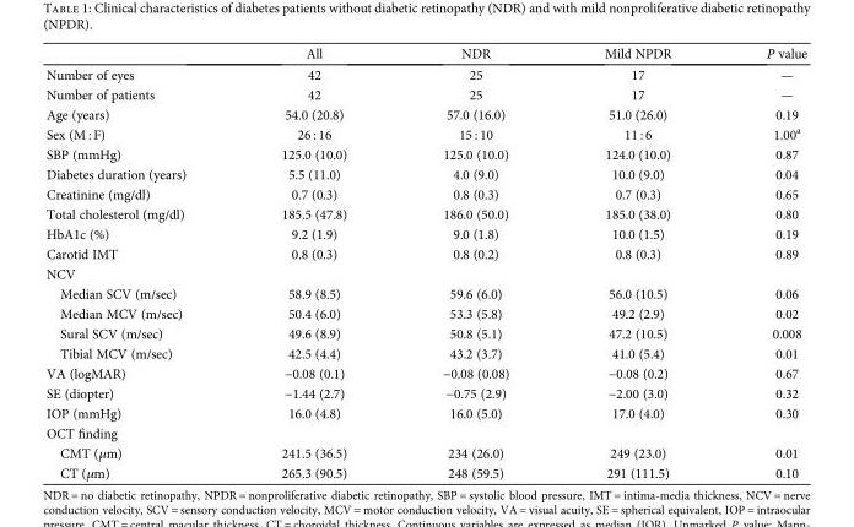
<table><thead><tr><td></td><td>All</td><td>NDR</td><td>Mild NPDR</td><td>P value</td></tr></thead><tbody><tr><td>Number of eyes</td><td>42</td><td>25</td><td>17</td><td>—</td></tr><tr><td>Number of patients</td><td>42</td><td>25</td><td>17</td><td>—</td></tr><tr><td>Age (years)</td><td>54.0 (20.8)</td><td>57.0 (16.0)</td><td>51.0 (26.0)</td><td>0.19</td></tr><tr><td>Sex (M : F)</td><td>26 : 16</td><td>15 : 10</td><td>11 : 6</td><td>1.00<sup>a</sup></td></tr><tr><td>SBP (mmHg)</td><td>125.0 (10.0)</td><td>125.0 (10.0)</td><td>124.0 (10.0)</td><td>0.87</td></tr><tr><td>Diabetes duration (years)</td><td>5.5 (11.0)</td><td>4.0 (9.0)</td><td>10.0 (9.0)</td><td>0.04</td></tr><tr><td>Creatinine (mg/dl)</td><td>0.7 (0.3)</td><td>0.8 (0.3)</td><td>0.7 (0.3)</td><td>0.65</td></tr><tr><td>Total cholesterol (mg/dl)</td><td>185.5 (47.8)</td><td>186.0 (50.0)</td><td>185.0 (38.0)</td><td>0.80</td></tr><tr><td>HbA1c (%)</td><td>9.2 (1.9)</td><td>9.0 (1.8)</td><td>10.0 (1.5)</td><td>0.19</td></tr><tr><td>Carotid IMT</td><td>0.8 (0.3)</td><td>0.8 (0.2)</td><td>0.8 (0.3)</td><td>0.89</td></tr><tr><td colspan="5">NCV</td></tr><tr><td>Median SCV (m/sec)</td><td>58.9 (8.5)</td><td>59.6 (6.0)</td><td>56.0 (10.5)</td><td>0.06</td></tr><tr><td>Median MCV (m/sec)</td><td>50.4 (6.0)</td><td>53.3 (5.8)</td><td>49.2 (2.9)</td><td>0.02</td></tr><tr><td>Sural SCV (m/sec)</td><td>49.6 (8.9)</td><td>50.8 (5.1)</td><td>47.2 (10.5)</td><td>0.008</td></tr><tr><td>Tibial MCV (m/sec)</td><td>42.5 (4.4)</td><td>43.2 (3.7)</td><td>41.0 (5.4)</td><td>0.01</td></tr><tr><td>VA (logMAR)</td><td>−0.08 (0.1)</td><td>−0.08 (0.08)</td><td>−0.08 (0.2)</td><td>0.67</td></tr><tr><td>SE (diopter)</td><td>−1.44 (2.7)</td><td>−0.75 (2.9)</td><td>−2.00 (3.0)</td><td>0.32</td></tr><tr><td>IOP (mmHg)</td><td>16.0 (4.8)</td><td>16.0 (5.0)</td><td>17.0 (4.0)</td><td>0.30</td></tr><tr><td colspan="5">OCT finding</td></tr><tr><td>CMT (μm)</td><td>241.5 (36.5)</td><td>234 (26.0)</td><td>249 (23.0)</td><td>0.01</td></tr><tr><td>CT (μm)</td><td>265.3 (90.5)</td><td>248 (59.5)</td><td>291 (111.5)</td><td>0.10</td></tr></tbody></table>